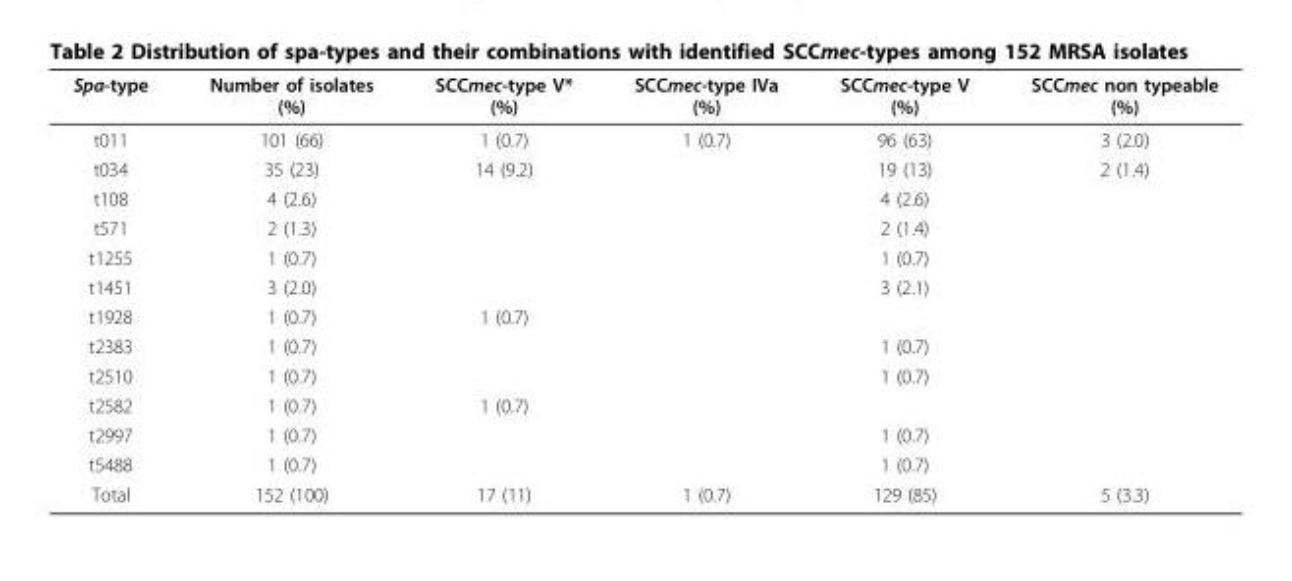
<table><thead><tr><td>Spa-type</td><td>Number of isolates (%)</td><td>SCCmec-type V* (%)</td><td>SCCmec-type IVa (%)</td><td>SCCmec-type V (%)</td><td>SCCmec non typeable (%)</td></tr></thead><tbody><tr><td>t011</td><td>101 (66)</td><td>1 (0.7)</td><td>1 (0.7)</td><td>96 (63)</td><td>3 (2.0)</td></tr><tr><td>t034</td><td>35 (23)</td><td>14 (9.2)</td><td></td><td>19 (13)</td><td>2 (1.4)</td></tr><tr><td>t108</td><td>4 (2.6)</td><td></td><td></td><td>4 (2.6)</td><td></td></tr><tr><td>t571</td><td>2 (1.3)</td><td></td><td></td><td>2 (1.4)</td><td></td></tr><tr><td>t1255</td><td>1 (0.7)</td><td></td><td></td><td>1 (0.7)</td><td></td></tr><tr><td>t1451</td><td>3 (2.0)</td><td></td><td></td><td>3 (2.1)</td><td></td></tr><tr><td>t1928</td><td>1 (0.7)</td><td>1 (0.7)</td><td></td><td></td><td></td></tr><tr><td>t2383</td><td>1 (0.7)</td><td></td><td></td><td>1 (0.7)</td><td></td></tr><tr><td>t2510</td><td>1 (0.7)</td><td></td><td></td><td>1 (0.7)</td><td></td></tr><tr><td>t2582</td><td>1 (0.7)</td><td>1 (0.7)</td><td></td><td></td><td></td></tr><tr><td>t2997</td><td>1 (0.7)</td><td></td><td></td><td>1 (0.7)</td><td></td></tr><tr><td>t5488</td><td>1 (0.7)</td><td></td><td></td><td>1 (0.7)</td><td></td></tr><tr><td>Total</td><td>152 (100)</td><td>17 (11)</td><td>1 (0.7)</td><td>129 (85)</td><td>5 (3.3)</td></tr></tbody></table>